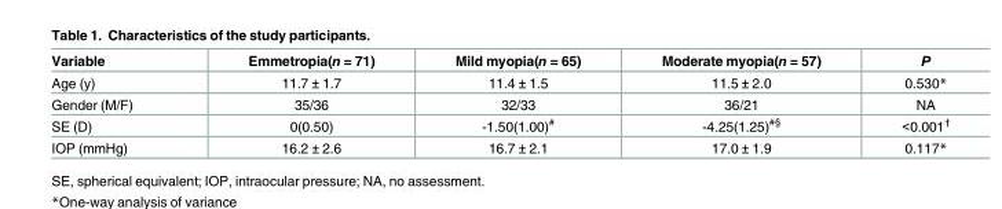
<table><thead><tr><td>Variable</td><td>Emmetropia(n = 71)</td><td>Mild myopia(n = 65)</td><td>Moderate myopia(n = 57)</td><td>P</td></tr></thead><tbody><tr><td>Age (y)</td><td>11.7 ± 1.7</td><td>11.4 ± 1.5</td><td>11.5 ± 2.0</td><td>0.530*</td></tr><tr><td>Gender (M/F)</td><td>35/36</td><td>32/33</td><td>36/21</td><td>NA</td></tr><tr><td>SE (D)</td><td>0(0.50)</td><td>-1.50(1.00)<sup>#</sup></td><td>-4.25(1.25)<sup>#§</sup></td><td>&lt;0.001<sup>†</sup></td></tr><tr><td>IOP (mmHg)</td><td>16.2 ± 2.6</td><td>16.7 ± 2.1</td><td>17.0 ± 1.9</td><td>0.117*</td></tr></tbody></table>